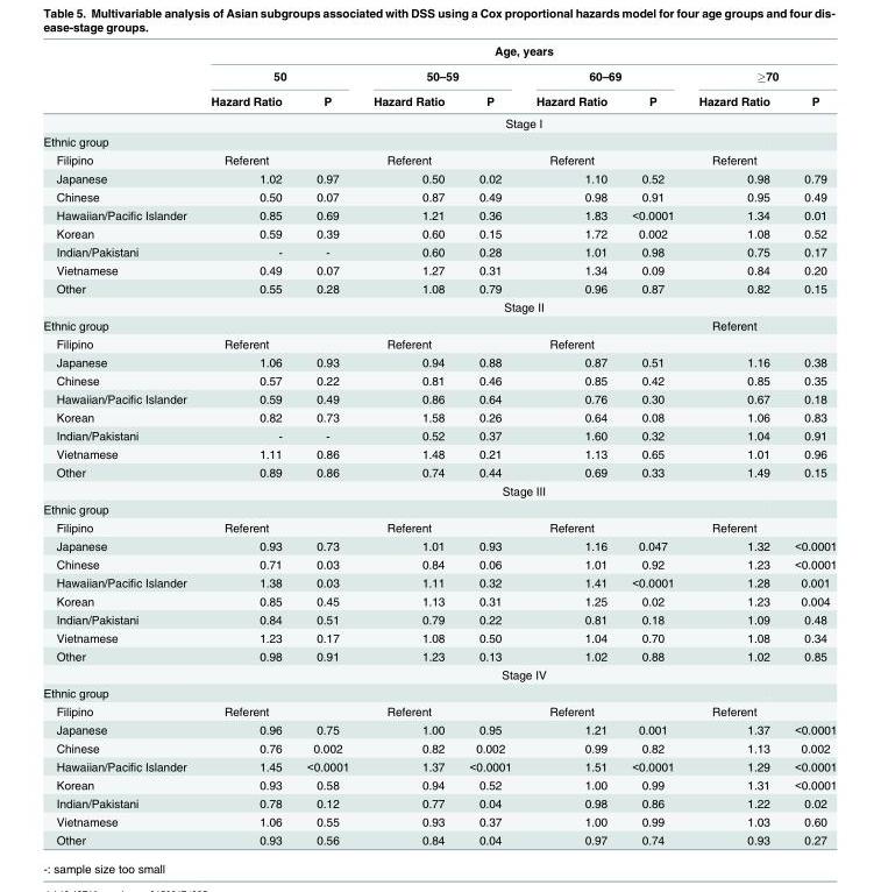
<table><thead><tr><td rowspan="3"></td><td colspan="8">Age, years</td></tr><tr><td colspan="2">50</td><td colspan="2">50–59</td><td colspan="2">60–69</td><td colspan="2">≥70</td></tr><tr><td>Hazard Ratio</td><td>P</td><td>Hazard Ratio</td><td>P</td><td>Hazard Ratio</td><td>P</td><td>Hazard Ratio</td><td>P</td></tr></thead><tbody><tr><td></td><td colspan="8">Stage I</td></tr><tr><td colspan="9">Ethnic group</td></tr><tr><td>Filipino</td><td>Referent</td><td></td><td>Referent</td><td></td><td>Referent</td><td></td><td>Referent</td><td></td></tr><tr><td>Japanese</td><td>1.02</td><td>0.97</td><td>0.50</td><td>0.02</td><td>1.10</td><td>0.52</td><td>0.98</td><td>0.79</td></tr><tr><td>Chinese</td><td>0.50</td><td>0.07</td><td>0.87</td><td>0.49</td><td>0.98</td><td>0.91</td><td>0.95</td><td>0.49</td></tr><tr><td>Hawaiian/Pacific Islander</td><td>0.85</td><td>0.69</td><td>1.21</td><td>0.36</td><td>1.83</td><td>&lt;0.0001</td><td>1.34</td><td>0.01</td></tr><tr><td>Korean</td><td>0.59</td><td>0.39</td><td>0.60</td><td>0.15</td><td>1.72</td><td>0.002</td><td>1.08</td><td>0.52</td></tr><tr><td>Indian/Pakistani</td><td>-</td><td>-</td><td>0.60</td><td>0.28</td><td>1.01</td><td>0.98</td><td>0.75</td><td>0.17</td></tr><tr><td>Vietnamese</td><td>0.49</td><td>0.07</td><td>1.27</td><td>0.31</td><td>1.34</td><td>0.09</td><td>0.84</td><td>0.20</td></tr><tr><td rowspan="2">Other</td><td>0.55</td><td>0.28</td><td>1.08</td><td>0.79</td><td>0.96</td><td>0.87</td><td>0.82</td><td>0.15</td></tr><tr><td colspan="8">Stage II</td></tr><tr><td>Ethnic group</td><td></td><td></td><td></td><td></td><td></td><td></td><td>Referent</td><td></td></tr><tr><td>Filipino</td><td>Referent</td><td></td><td>Referent</td><td></td><td>Referent</td><td></td><td></td><td></td></tr><tr><td>Japanese</td><td>1.06</td><td>0.93</td><td>0.94</td><td>0.88</td><td>0.87</td><td>0.51</td><td>1.16</td><td>0.38</td></tr><tr><td>Chinese</td><td>0.57</td><td>0.22</td><td>0.81</td><td>0.46</td><td>0.85</td><td>0.42</td><td>0.85</td><td>0.35</td></tr><tr><td>Hawaiian/Pacific Islander</td><td>0.59</td><td>0.49</td><td>0.86</td><td>0.64</td><td>0.76</td><td>0.30</td><td>0.67</td><td>0.18</td></tr><tr><td>Korean</td><td>0.82</td><td>0.73</td><td>1.58</td><td>0.26</td><td>0.64</td><td>0.08</td><td>1.06</td><td>0.83</td></tr><tr><td>Indian/Pakistani</td><td>-</td><td>-</td><td>0.52</td><td>0.37</td><td>1.60</td><td>0.32</td><td>1.04</td><td>0.91</td></tr><tr><td>Vietnamese</td><td>1.11</td><td>0.86</td><td>1.48</td><td>0.21</td><td>1.13</td><td>0.65</td><td>1.01</td><td>0.96</td></tr><tr><td rowspan="2">Other</td><td>0.89</td><td>0.86</td><td>0.74</td><td>0.44</td><td>0.69</td><td>0.33</td><td>1.49</td><td>0.15</td></tr><tr><td colspan="8">Stage III</td></tr><tr><td colspan="9">Ethnic group</td></tr><tr><td>Filipino</td><td>Referent</td><td></td><td>Referent</td><td></td><td>Referent</td><td></td><td>Referent</td><td></td></tr><tr><td>Japanese</td><td>0.93</td><td>0.73</td><td>1.01</td><td>0.93</td><td>1.16</td><td>0.047</td><td>1.32</td><td>&lt;0.0001</td></tr><tr><td>Chinese</td><td>0.71</td><td>0.03</td><td>0.84</td><td>0.06</td><td>1.01</td><td>0.92</td><td>1.23</td><td>&lt;0.0001</td></tr><tr><td>Hawaiian/Pacific Islander</td><td>1.38</td><td>0.03</td><td>1.11</td><td>0.32</td><td>1.41</td><td>&lt;0.0001</td><td>1.28</td><td>0.001</td></tr><tr><td>Korean</td><td>0.85</td><td>0.45</td><td>1.13</td><td>0.31</td><td>1.25</td><td>0.02</td><td>1.23</td><td>0.004</td></tr><tr><td>Indian/Pakistani</td><td>0.84</td><td>0.51</td><td>0.79</td><td>0.22</td><td>0.81</td><td>0.18</td><td>1.09</td><td>0.48</td></tr><tr><td>Vietnamese</td><td>1.23</td><td>0.17</td><td>1.08</td><td>0.50</td><td>1.04</td><td>0.70</td><td>1.08</td><td>0.34</td></tr><tr><td rowspan="2">Other</td><td>0.98</td><td>0.91</td><td>1.23</td><td>0.13</td><td>1.02</td><td>0.88</td><td>1.02</td><td>0.85</td></tr><tr><td colspan="8">Stage IV</td></tr><tr><td colspan="9">Ethnic group</td></tr><tr><td>Filipino</td><td>Referent</td><td></td><td>Referent</td><td></td><td>Referent</td><td></td><td>Referent</td><td></td></tr><tr><td>Japanese</td><td>0.96</td><td>0.75</td><td>1.00</td><td>0.95</td><td>1.21</td><td>0.001</td><td>1.37</td><td>&lt;0.0001</td></tr><tr><td>Chinese</td><td>0.76</td><td>0.002</td><td>0.82</td><td>0.002</td><td>0.99</td><td>0.82</td><td>1.13</td><td>0.002</td></tr><tr><td>Hawaiian/Pacific Islander</td><td>1.45</td><td>&lt;0.0001</td><td>1.37</td><td>&lt;0.0001</td><td>1.51</td><td>&lt;0.0001</td><td>1.29</td><td>&lt;0.0001</td></tr><tr><td>Korean</td><td>0.93</td><td>0.58</td><td>0.94</td><td>0.52</td><td>1.00</td><td>0.99</td><td>1.31</td><td>&lt;0.0001</td></tr><tr><td>Indian/Pakistani</td><td>0.78</td><td>0.12</td><td>0.77</td><td>0.04</td><td>0.98</td><td>0.86</td><td>1.22</td><td>0.02</td></tr><tr><td>Vietnamese</td><td>1.06</td><td>0.55</td><td>0.93</td><td>0.37</td><td>1.00</td><td>0.99</td><td>1.03</td><td>0.60</td></tr><tr><td>Other</td><td>0.93</td><td>0.56</td><td>0.84</td><td>0.04</td><td>0.97</td><td>0.74</td><td>0.93</td><td>0.27</td></tr></tbody></table>